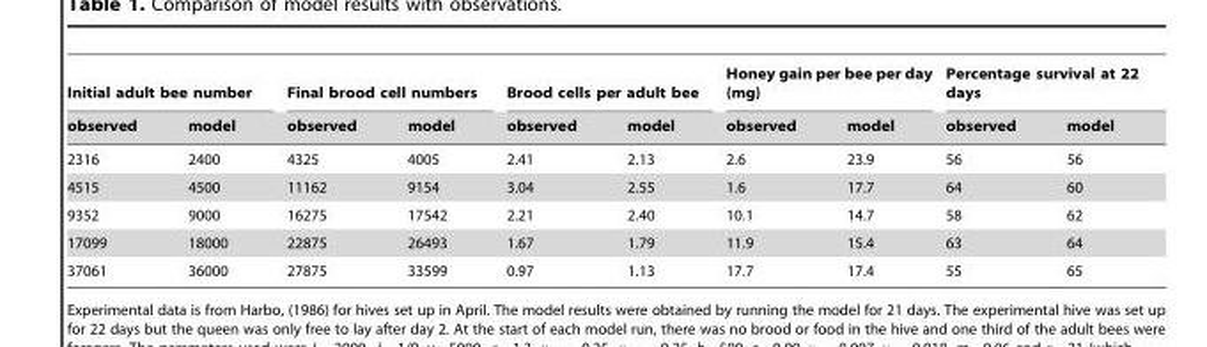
<table><thead><tr><td colspan="2">Initial adult bee number</td><td colspan="2">Final brood cell numbers</td><td colspan="2">Brood cells per adult bee</td><td colspan="2">Honey gain per bee per day (mg)</td><td colspan="2">Percentage survival at 22 days</td></tr><tr><td>observed</td><td>model</td><td>observed</td><td>model</td><td>observed</td><td>model</td><td>observed</td><td>model</td><td>observed</td><td>model</td></tr></thead><tbody><tr><td>2316</td><td>2400</td><td>4325</td><td>4005</td><td>2.41</td><td>2.13</td><td>2.6</td><td>23.9</td><td>56</td><td>56</td></tr><tr><td>4515</td><td>4500</td><td>11162</td><td>9154</td><td>3.04</td><td>2.55</td><td>1.6</td><td>17.7</td><td>64</td><td>60</td></tr><tr><td>9352</td><td>9000</td><td>16275</td><td>17542</td><td>2.21</td><td>2.40</td><td>10.1</td><td>14.7</td><td>58</td><td>62</td></tr><tr><td>17099</td><td>18000</td><td>22875</td><td>26493</td><td>1.67</td><td>1.79</td><td>11.9</td><td>15.4</td><td>63</td><td>64</td></tr><tr><td>37061</td><td>36000</td><td>27875</td><td>33599</td><td>0.97</td><td>1.13</td><td>17.7</td><td>17.4</td><td>55</td><td>65</td></tr></tbody></table>